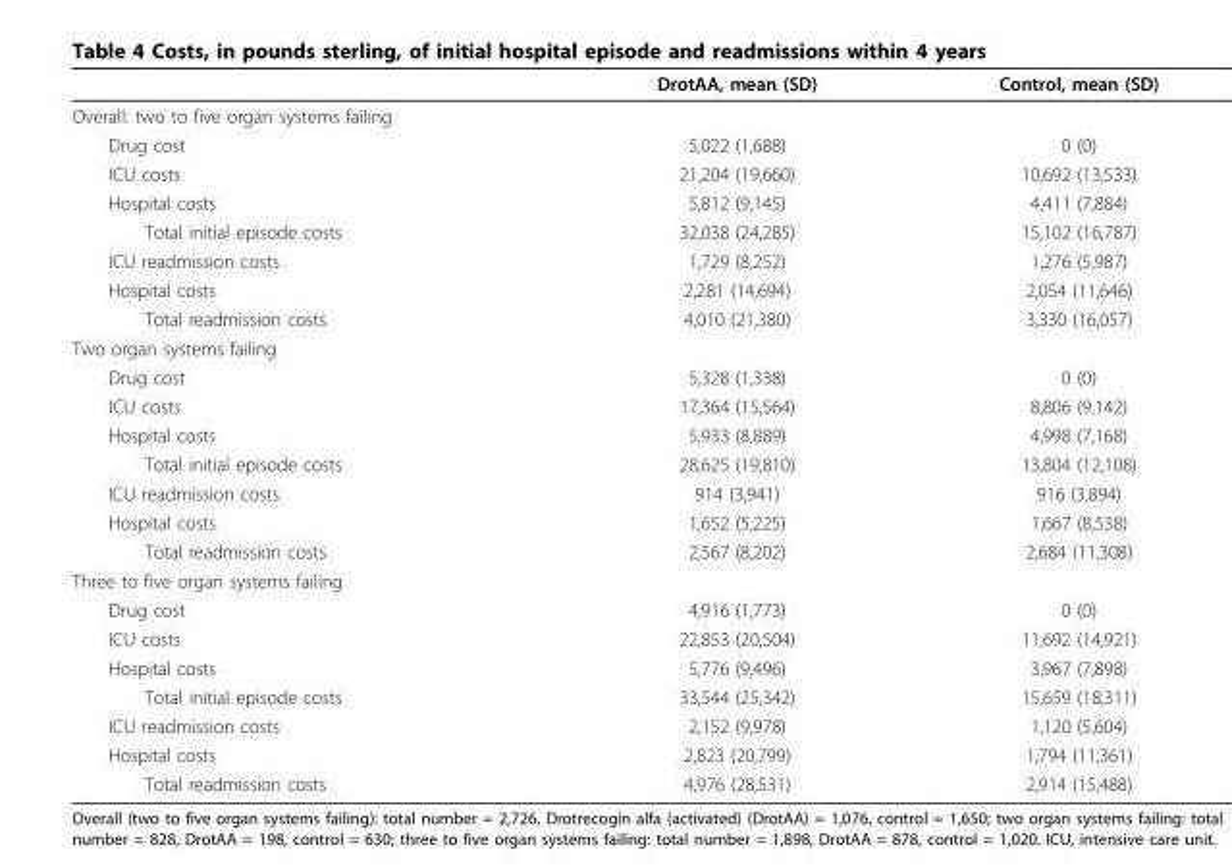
<table><thead><tr><td></td><td>DrotAA, mean (SD)</td><td>Control, mean (SD)</td></tr></thead><tbody><tr><td colspan="3">Overall: two to five organ systems failing</td></tr><tr><td>Drug cost</td><td>5,022 (1,688)</td><td>0 (0)</td></tr><tr><td>ICU costs</td><td>21,204 (19,660)</td><td>10,692 (13,533)</td></tr><tr><td>Hospital costs</td><td>5,812 (9,145)</td><td>4,411 (7,884)</td></tr><tr><td>Total initial episode costs</td><td>32,038 (24,285)</td><td>15,102 (16,787)</td></tr><tr><td>ICU readmission costs</td><td>1,729 (8,252)</td><td>1,276 (5,987)</td></tr><tr><td>Hospital costs</td><td>2,281 (14,694)</td><td>2,054 (11,646)</td></tr><tr><td>Total readmission costs</td><td>4,010 (21,380)</td><td>3,330 (16,057)</td></tr><tr><td colspan="3">Two organ systems failing</td></tr><tr><td>Drug cost</td><td>5,328 (1,338)</td><td>0 (0)</td></tr><tr><td>ICU costs</td><td>17,364 (15,564)</td><td>8,806 (9,142)</td></tr><tr><td>Hospital costs</td><td>5,933 (8,889)</td><td>4,998 (7,168)</td></tr><tr><td>Total initial episode costs</td><td>28,625 (19,810)</td><td>13,804 (12,108)</td></tr><tr><td>ICU readmission costs</td><td>914 (3,941)</td><td>916 (3,894)</td></tr><tr><td>Hospital costs</td><td>1,652 (5,225)</td><td>1,667 (8,538)</td></tr><tr><td>Total readmission costs</td><td>2,567 (8,202)</td><td>2,684 (11,308)</td></tr><tr><td colspan="3">Three to five organ systems failing</td></tr><tr><td>Drug cost</td><td>4,916 (1,773)</td><td>0 (0)</td></tr><tr><td>ICU costs</td><td>22,853 (20,504)</td><td>11,692 (14,921)</td></tr><tr><td>Hospital costs</td><td>5,776 (9,496)</td><td>3,967 (7,898)</td></tr><tr><td>Total initial episode costs</td><td>33,544 (25,342)</td><td>15,659 (18,311)</td></tr><tr><td>ICU readmission costs</td><td>2,152 (9,978)</td><td>1,120 (5,604)</td></tr><tr><td>Hospital costs</td><td>2,823 (20,799)</td><td>1,794 (11,361)</td></tr><tr><td>Total readmission costs</td><td>4,976 (28,531)</td><td>2,914 (15,488)</td></tr></tbody></table>